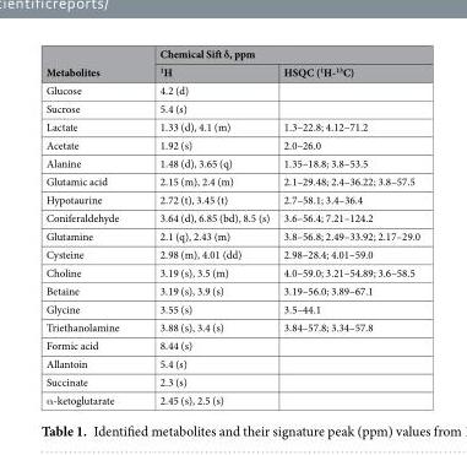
<table><thead><tr><td rowspan="2">Metabolites</td><td colspan="2">Chemical Sift δ, ppm</td></tr><tr><td><sup>1</sup>H</td><td>HSQC (<sup>1</sup>H-<sup>13</sup>C)</td></tr></thead><tbody><tr><td>Glucose</td><td>4.2 (d)</td><td></td></tr><tr><td>Sucrose</td><td>5.4 (s)</td><td></td></tr><tr><td>Lactate</td><td>1.33 (d), 4.1 (m)</td><td>1.3–22.8; 4.12–71.2</td></tr><tr><td>Acetate</td><td>1.92 (s)</td><td>2.0–26.0</td></tr><tr><td>Alanine</td><td>1.48 (d), 3.65 (q)</td><td>1.35–18.8; 3.8–53.5</td></tr><tr><td>Glutamic acid</td><td>2.15 (m), 2.4 (m)</td><td>2.1–29.48; 2.4–36.22; 3.8–57.5</td></tr><tr><td>Hypotaurine</td><td>2.72 (t), 3.45 (t)</td><td>2.7–58.1; 3.4–36.4</td></tr><tr><td>Coniferaldehyde</td><td>3.64 (d), 6.85 (bd), 8.5 (s)</td><td>3.6–56.4; 7.21–124.2</td></tr><tr><td>Glutamine</td><td>2.1 (q), 2.43 (m)</td><td>3.8–56.8; 2.49–33.92; 2.17–29.0</td></tr><tr><td>Cysteine</td><td>2.98 (m), 4.01 (dd)</td><td>2.98–28.4; 4.01–59.0</td></tr><tr><td>Choline</td><td>3.19 (s), 3.5 (m)</td><td>4.0–59.0; 3.21–54.89; 3.6–58.5</td></tr><tr><td>Betaine</td><td>3.19 (s), 3.9 (s)</td><td>3.19–56.0; 3.89–67.1</td></tr><tr><td>Glycine</td><td>3.55 (s)</td><td>3.5–44.1</td></tr><tr><td>Triethanolamine</td><td>3.88 (s), 3.4 (s)</td><td>3.84–57.8; 3.34–57.8</td></tr><tr><td>Formic acid</td><td>8.44 (s)</td><td></td></tr><tr><td>Allantoin</td><td>5.4 (s)</td><td></td></tr><tr><td>Succinate</td><td>2.3 (s)</td><td></td></tr><tr><td>α-ketoglutarate</td><td>2.45 (s), 2.5 (s)</td><td></td></tr></tbody></table>